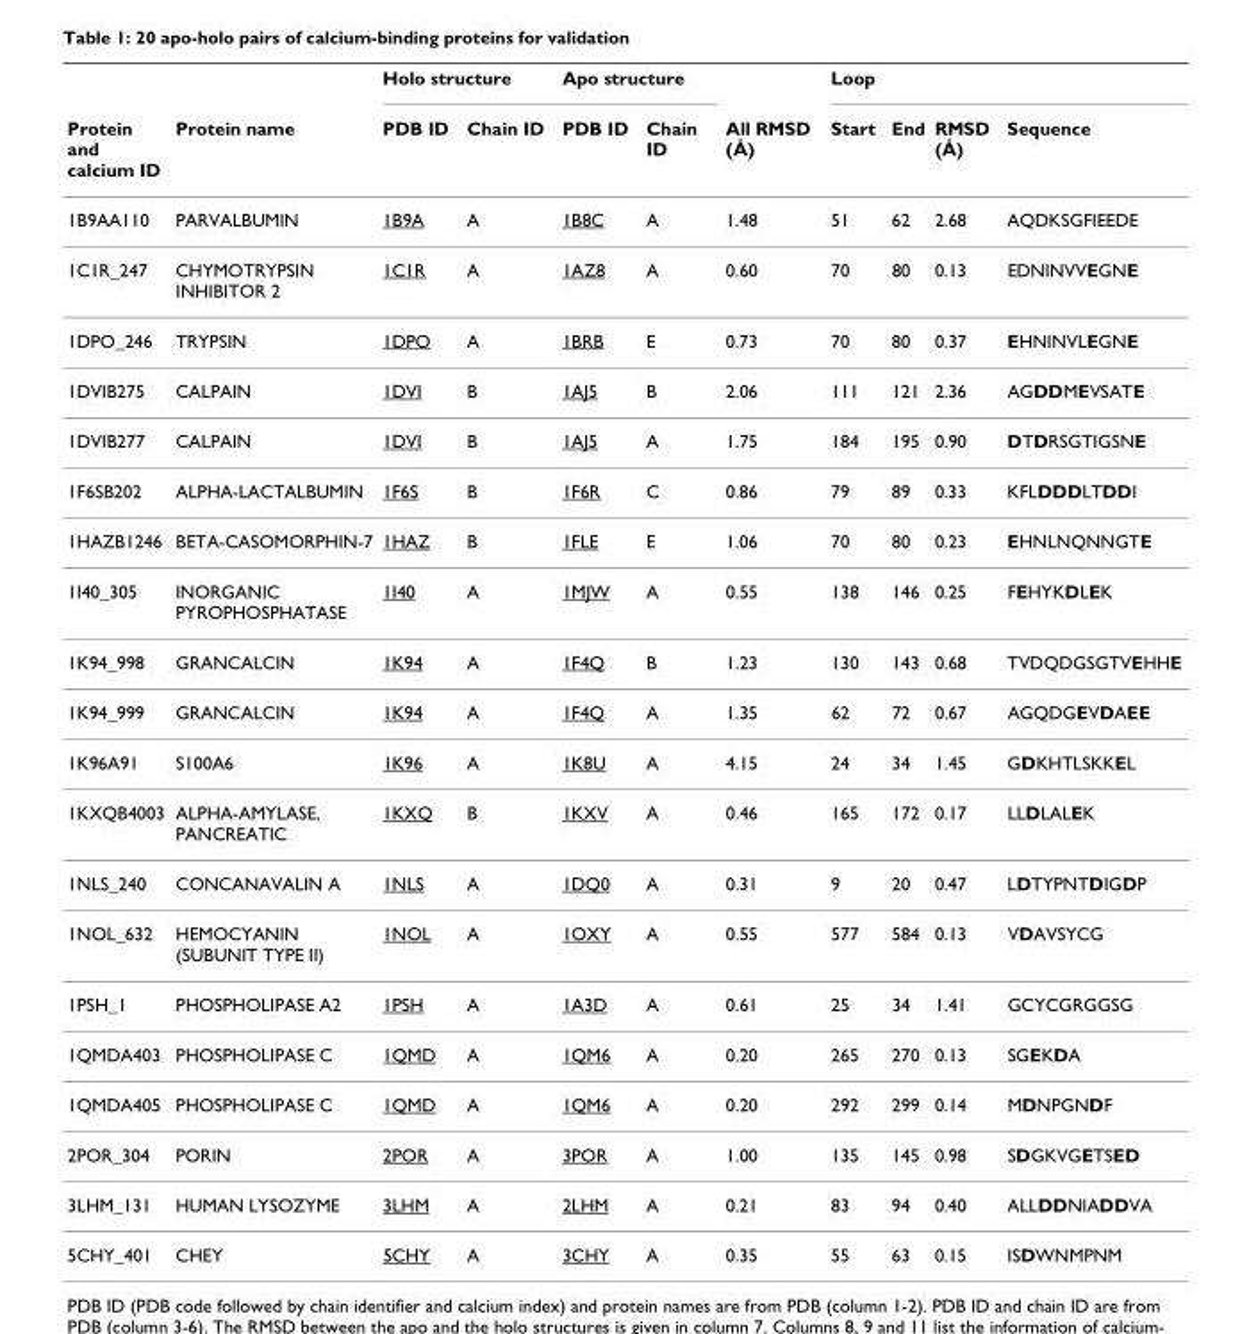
<table><thead><tr><td rowspan="2">Protein and calcium ID</td><td rowspan="2">Protein name</td><td colspan="2">Holo structure</td><td colspan="2">Apo structure</td><td rowspan="2">All RMSD (Å)</td><td colspan="4">Loop</td></tr><tr><td>PDB ID</td><td>Chain ID</td><td>PDB ID</td><td>Chain ID</td><td>Start</td><td>End</td><td>RMSD (Å)</td><td>Sequence</td></tr></thead><tbody><tr><td>1B9AA110</td><td>PARVALBUMIN</td><td>1B9A</td><td>A</td><td>1B8C</td><td>A</td><td>1.48</td><td>51</td><td>62</td><td>2.68</td><td>AQDKSGFIEEDE</td></tr><tr><td>1C1R_247</td><td>CHYMOTRYPSIN INHIBITOR 2</td><td>1C1R</td><td>A</td><td>1AZ8</td><td>A</td><td>0.60</td><td>70</td><td>80</td><td>0.13</td><td>EDNINVVEGNE</td></tr><tr><td>1DPO_246</td><td>TRYPSIN</td><td>1DPO</td><td>A</td><td>1BRB</td><td>E</td><td>0.73</td><td>70</td><td>80</td><td>0.37</td><td>EHNINVLEGNE</td></tr><tr><td>1DVIB275</td><td>CALPAIN</td><td>1DVI</td><td>B</td><td>1AJ5</td><td>B</td><td>2.06</td><td>111</td><td>121</td><td>2.36</td><td>AGDDMEVSATE</td></tr><tr><td>1DVIB277</td><td>CALPAIN</td><td>1DVI</td><td>B</td><td>1AJ5</td><td>A</td><td>1.75</td><td>184</td><td>195</td><td>0.90</td><td>DTDRSGTIGSNE</td></tr><tr><td>1F6SB202</td><td>ALPHA-LACTALBUMIN</td><td>1F6S</td><td>B</td><td>1F6R</td><td>C</td><td>0.86</td><td>79</td><td>89</td><td>0.33</td><td>KFLDDDLTDDI</td></tr><tr><td>1HAZB1246</td><td>BETA-CASOMORPHIN-7</td><td>1HAZ</td><td>B</td><td>1FLE</td><td>E</td><td>1.06</td><td>70</td><td>80</td><td>0.23</td><td>EHNLNQNNGTE</td></tr><tr><td>1I40_305</td><td>INORGANIC PYROPHOSPHATASE</td><td>1I40</td><td>A</td><td>1MJW</td><td>A</td><td>0.55</td><td>138</td><td>146</td><td>0.25</td><td>FEHYKDLEK</td></tr><tr><td>1K94_998</td><td>GRANCALCIN</td><td>1K94</td><td>A</td><td>1F4Q</td><td>B</td><td>1.23</td><td>130</td><td>143</td><td>0.68</td><td>TVDQDGSGTVEHHE</td></tr><tr><td>1K94_999</td><td>GRANCALCIN</td><td>1K94</td><td>A</td><td>1F4Q</td><td>A</td><td>1.35</td><td>62</td><td>72</td><td>0.67</td><td>AGQDGEVDAEE</td></tr><tr><td>1K96A91</td><td>S100A6</td><td>1K96</td><td>A</td><td>1K8U</td><td>A</td><td>4.15</td><td>24</td><td>34</td><td>1.45</td><td>GDKHTLSKKEL</td></tr><tr><td>1KXQB4003</td><td>ALPHA-AMYLASE, PANCREATIC</td><td>1KXQ</td><td>B</td><td>1KXV</td><td>A</td><td>0.46</td><td>165</td><td>172</td><td>0.17</td><td>LLDLALEK</td></tr><tr><td>1NLS_240</td><td>CONCANAVALIN A</td><td>1NLS</td><td>A</td><td>1DQ0</td><td>A</td><td>0.31</td><td>9</td><td>20</td><td>0.47</td><td>LDTYPNTDIGDP</td></tr><tr><td>1NOL_632</td><td>HEMOCYANIN (SUBUNIT TYPE II)</td><td>1NOL</td><td>A</td><td>1OXY</td><td>A</td><td>0.55</td><td>577</td><td>584</td><td>0.13</td><td>VDAVSYCG</td></tr><tr><td>1PSH_1</td><td>PHOSPHOLIPASE A2</td><td>1PSH</td><td>A</td><td>1A3D</td><td>A</td><td>0.61</td><td>25</td><td>34</td><td>1.41</td><td>GCYCGRGGSG</td></tr><tr><td>1QMDA403</td><td>PHOSPHOLIPASE C</td><td>1QMD</td><td>A</td><td>1QM6</td><td>A</td><td>0.20</td><td>265</td><td>270</td><td>0.13</td><td>SGEKDA</td></tr><tr><td>1QMDA405</td><td>PHOSPHOLIPASE C</td><td>1QMD</td><td>A</td><td>1QM6</td><td>A</td><td>0.20</td><td>292</td><td>299</td><td>0.14</td><td>MDNPGNDF</td></tr><tr><td>2POR_304</td><td>PORIN</td><td>2POR</td><td>A</td><td>3POR</td><td>A</td><td>1.00</td><td>135</td><td>145</td><td>0.98</td><td>SDGKVGETSED</td></tr><tr><td>3LHM_131</td><td>HUMAN LYSOZYME</td><td>3LHM</td><td>A</td><td>2LHM</td><td>A</td><td>0.21</td><td>83</td><td>94</td><td>0.40</td><td>ALLDDNIADDVA</td></tr><tr><td>5CHY_401</td><td>CHEY</td><td>5CHY</td><td>A</td><td>3CHY</td><td>A</td><td>0.35</td><td>55</td><td>63</td><td>0.15</td><td>ISDWNMPNM</td></tr></tbody></table>